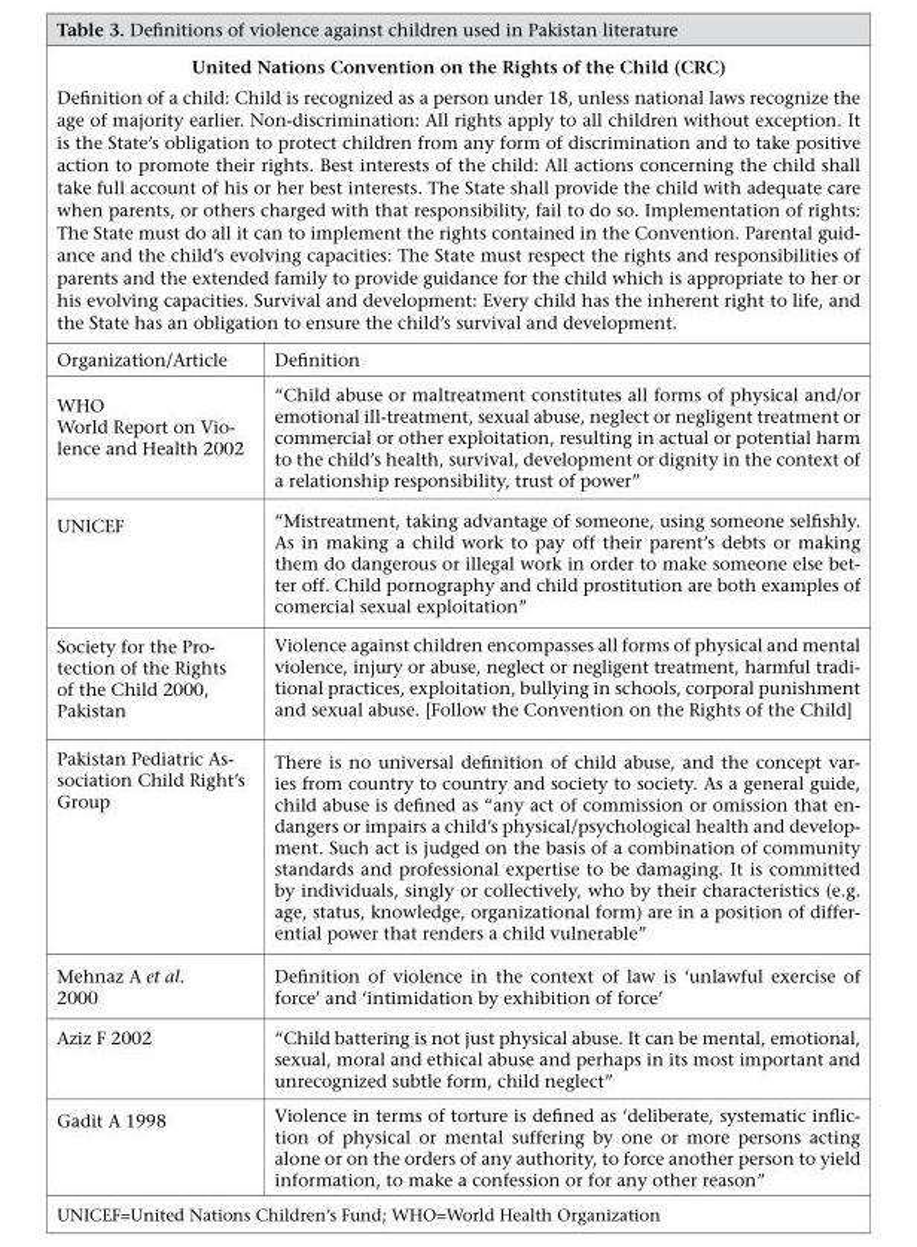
<table><tbody><tr><td colspan="2">United Nations Convention on the Rights of the Child (CRC)</td></tr><tr><td colspan="2">Definition of a child: Child is recognized as a person under 18, unless national laws recognize the age of majority earlier. Non-discrimination: All rights apply to all children without exception. It is the State’s obligation to protect children from any form of discrimination and to take positive action to promote their rights. Best interests of the child: All actions concerning the child shall take full account of his or her best interests. The State shall provide the child with adequate care when parents, or others charged with that responsibility, fail to do so. Implementation of rights: The State must do all it can to implement the rights contained in the Convention. Parental guid- ance and the child’s evolving capacities: The State must respect the rights and responsibilities of parents and the extended family to provide guidance for the child which is appropriate to her or his evolving capacities. Survival and development: Every child has the inherent right to life, and the State has an obligation to ensure the child’s survival and development.</td></tr><tr><td>Organization/Article</td><td>Definition</td></tr><tr><td>WHO World Report on Vio- lence and Health 2002</td><td>“Child abuse or maltreatment constitutes all forms of physical and/or emotional ill-treatment, sexual abuse, neglect or negligent treatment or commercial or other exploitation, resulting in actual or potential harm to the child’s health, survival, development or dignity in the context of a relationship responsibility, trust of power”</td></tr><tr><td>UNICEF</td><td>“Mistreatment, taking advantage of someone, using someone selfishly. As in making a child work to pay off their parent’s debts or making them do dangerous or illegal work in order to make someone else bet- ter off. Child pornography and child prostitution are both examples of comercial sexual exploitation”</td></tr><tr><td>Society for the Pro- tection of the Rights of the Child 2000, Pakistan</td><td>Violence against children encompasses all forms of physical and mental violence, injury or abuse, neglect or negligent treatment, harmful tradi- tional practices, exploitation, bullying in schools, corporal punishment and sexual abuse. [Follow the Convention on the Rights of the Child]</td></tr><tr><td>Pakistan Pediatric As- sociation Child Right’s Group</td><td>There is no universal definition of child abuse, and the concept var- ies from country to country and society to society. As a general guide, child abuse is defined as “any act of commission or omission that en- dangers or impairs a child’s physical/psychological health and develop- ment. Such act is judged on the basis of a combination of community standards and professional expertise to be damaging. It is committed by individuals, singly or collectively, who by their characteristics (e.g. age, status, knowledge, organizational form) are in a position of differ- ential power that renders a child vulnerable”</td></tr><tr><td>Mehnaz A et al. 2000</td><td>Definition of violence in the context of law is ‘unlawful exercise of force’ and ‘intimidation by exhibition of force’</td></tr><tr><td>Aziz F 2002</td><td>“Child battering is not just physical abuse. It can be mental, emotional, sexual, moral and ethical abuse and perhaps in its most important and unrecognized subtle form, child neglect”</td></tr><tr><td>Gadit A 1998</td><td>Violence in terms of torture is defined as ‘deliberate, systematic inflic- tion of physical or mental suffering by one or more persons acting alone or on the orders of any authority, to force another person to yield information, to make a confession or for any other reason”</td></tr></tbody></table>